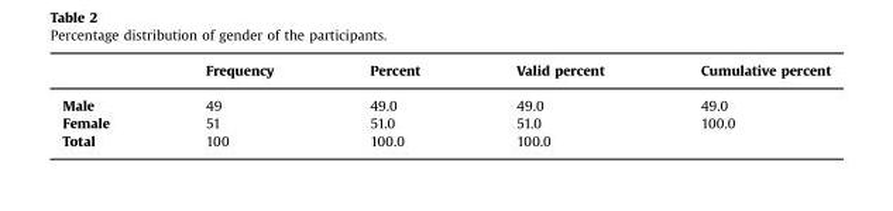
<table><thead><tr><td></td><td>Frequency</td><td>Percent</td><td>Valid percent</td><td>Cumulative percent</td></tr></thead><tbody><tr><td>Male</td><td>49</td><td>49.0</td><td>49.0</td><td>49.0</td></tr><tr><td>Female</td><td>51</td><td>51.0</td><td>51.0</td><td>100.0</td></tr><tr><td>Total</td><td>100</td><td>100.0</td><td>100.0</td><td></td></tr></tbody></table>